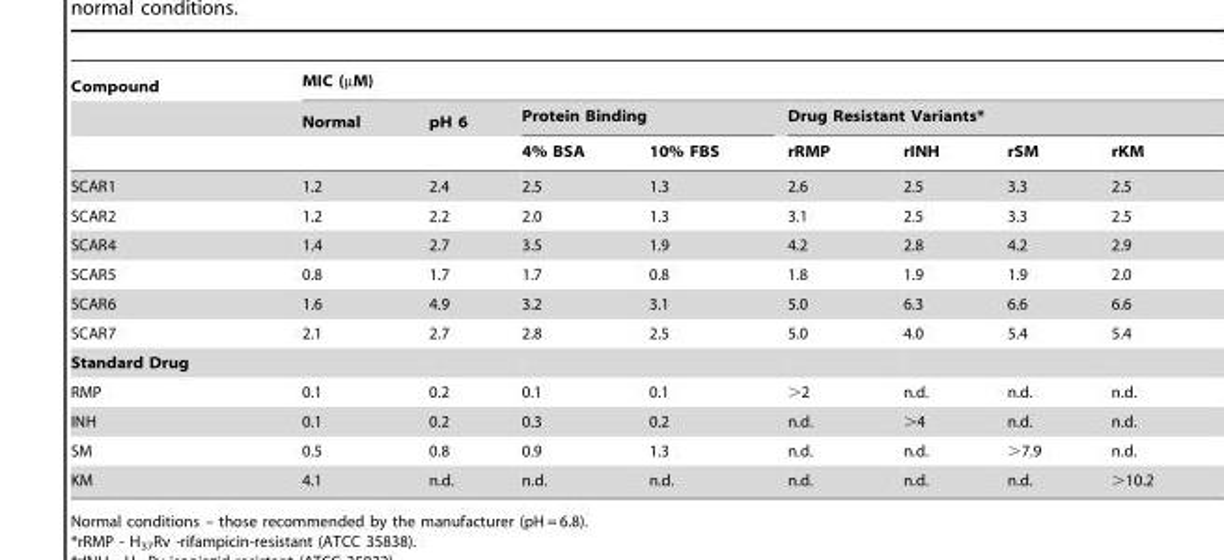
<table><thead><tr><td rowspan="3">Compound</td><td colspan="8">MIC (µM)</td></tr><tr><td rowspan="2">Normal</td><td rowspan="2">pH 6</td><td colspan="2">Protein Binding</td><td colspan="4">Drug Resistant Variants*</td></tr><tr><td>4% BSA</td><td>10% FBS</td><td>rRMP</td><td>rINH</td><td>rSM</td><td>rKM</td></tr></thead><tbody><tr><td>SCAR1</td><td>1.2</td><td>2.4</td><td>2.5</td><td>1.3</td><td>2.6</td><td>2.5</td><td>3.3</td><td>2.5</td></tr><tr><td>SCAR2</td><td>1.2</td><td>2.2</td><td>2.0</td><td>1.3</td><td>3.1</td><td>2.5</td><td>3.3</td><td>2.5</td></tr><tr><td>SCAR4</td><td>1.4</td><td>2.7</td><td>3.5</td><td>1.9</td><td>4.2</td><td>2.8</td><td>4.2</td><td>2.9</td></tr><tr><td>SCAR5</td><td>0.8</td><td>1.7</td><td>1.7</td><td>0.8</td><td>1.8</td><td>1.9</td><td>1.9</td><td>2.0</td></tr><tr><td>SCAR6</td><td>1.6</td><td>4.9</td><td>3.2</td><td>3.1</td><td>5.0</td><td>6.3</td><td>6.6</td><td>6.6</td></tr><tr><td>SCAR7</td><td>2.1</td><td>2.7</td><td>2.8</td><td>2.5</td><td>5.0</td><td>4.0</td><td>5.4</td><td>5.4</td></tr><tr><td colspan="9">Standard Drug</td></tr><tr><td>RMP</td><td>0.1</td><td>0.2</td><td>0.1</td><td>0.1</td><td>&gt;2</td><td>n.d.</td><td>n.d.</td><td>n.d.</td></tr><tr><td>INH</td><td>0.1</td><td>0.2</td><td>0.3</td><td>0.2</td><td>n.d.</td><td>&gt;4</td><td>n.d.</td><td>n.d.</td></tr><tr><td>SM</td><td>0.5</td><td>0.8</td><td>0.9</td><td>1.3</td><td>n.d.</td><td>n.d.</td><td>&gt;7.9</td><td>n.d.</td></tr><tr><td>KM</td><td>4.1</td><td>n.d.</td><td>n.d.</td><td>n.d.</td><td>n.d.</td><td>n.d.</td><td>n.d.</td><td>&gt;10.2</td></tr></tbody></table>